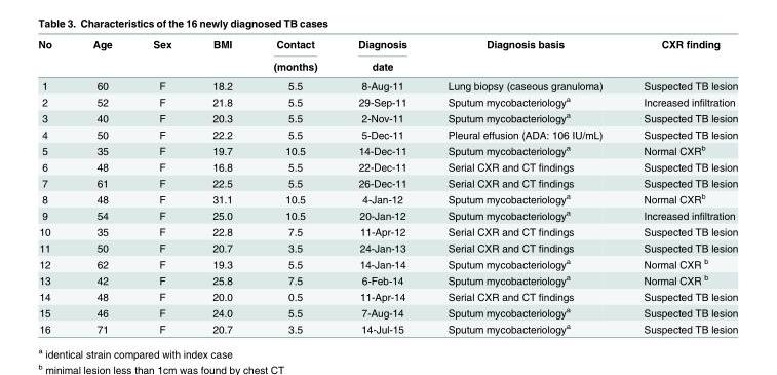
<table><thead><tr><td rowspan="2">No</td><td rowspan="2">Age</td><td rowspan="2">Sex</td><td rowspan="2">BMI</td><td rowspan="2">Contact (months)</td><td rowspan="2">Diagnosis date</td><td rowspan="2">Diagnosis basis</td><td rowspan="2">CXR finding</td></tr><tr></tr></thead><tbody><tr><td>1</td><td>60</td><td>F</td><td>18.2</td><td>5.5</td><td>8-Aug-11</td><td>Lung biopsy (caseous granuloma)</td><td>Suspected TB lesion</td></tr><tr><td>2</td><td>52</td><td>F</td><td>21.8</td><td>5.5</td><td>29-Sep-11</td><td>Sputum mycobacteriology<sup>a</sup></td><td>Increased infiltration</td></tr><tr><td>3</td><td>40</td><td>F</td><td>20.3</td><td>5.5</td><td>2-Nov-11</td><td>Sputum mycobacteriology<sup>a</sup></td><td>Suspected TB lesion</td></tr><tr><td>4</td><td>50</td><td>F</td><td>22.2</td><td>5.5</td><td>5-Dec-11</td><td>Pleural effusion (ADA: 106 IU/mL)</td><td>Suspected TB lesion</td></tr><tr><td>5</td><td>35</td><td>F</td><td>19.7</td><td>10.5</td><td>14-Dec-11</td><td>Sputum mycobacteriology<sup>a</sup></td><td>Normal CXR<sup>b</sup></td></tr><tr><td>6</td><td>48</td><td>F</td><td>16.8</td><td>5.5</td><td>22-Dec-11</td><td>Serial CXR and CT findings</td><td>Suspected TB lesion</td></tr><tr><td>7</td><td>61</td><td>F</td><td>22.5</td><td>5.5</td><td>26-Dec-11</td><td>Serial CXR and CT findings</td><td>Suspected TB lesion</td></tr><tr><td>8</td><td>48</td><td>F</td><td>31.1</td><td>10.5</td><td>4-Jan-12</td><td>Sputum mycobacteriology<sup>a</sup></td><td>Normal CXR<sup>b</sup></td></tr><tr><td>9</td><td>54</td><td>F</td><td>25.0</td><td>10.5</td><td>20-Jan-12</td><td>Sputum mycobacteriology<sup>a</sup></td><td>Increased infiltration</td></tr><tr><td>10</td><td>35</td><td>F</td><td>22.8</td><td>7.5</td><td>11-Apr-12</td><td>Serial CXR and CT findings</td><td>Suspected TB lesion</td></tr><tr><td>11</td><td>50</td><td>F</td><td>20.7</td><td>3.5</td><td>24-Jan-13</td><td>Serial CXR and CT findings</td><td>Suspected TB lesion</td></tr><tr><td>12</td><td>62</td><td>F</td><td>19.3</td><td>5.5</td><td>14-Jan-14</td><td>Sputum mycobacteriology<sup>a</sup></td><td>Normal CXR <sup>b</sup></td></tr><tr><td>13</td><td>42</td><td>F</td><td>25.8</td><td>7.5</td><td>6-Feb-14</td><td>Sputum mycobacteriology<sup>a</sup></td><td>Normal CXR <sup>b</sup></td></tr><tr><td>14</td><td>48</td><td>F</td><td>20.0</td><td>0.5</td><td>11-Apr-14</td><td>Serial CXR and CT findings</td><td>Suspected TB lesion</td></tr><tr><td>15</td><td>46</td><td>F</td><td>24.0</td><td>5.5</td><td>7-Aug-14</td><td>Sputum mycobacteriology<sup>a</sup></td><td>Suspected TB lesion</td></tr><tr><td>16</td><td>71</td><td>F</td><td>20.7</td><td>3.5</td><td>14-Jul-15</td><td>Sputum mycobacteriology<sup>a</sup></td><td>Suspected TB lesion</td></tr></tbody></table>